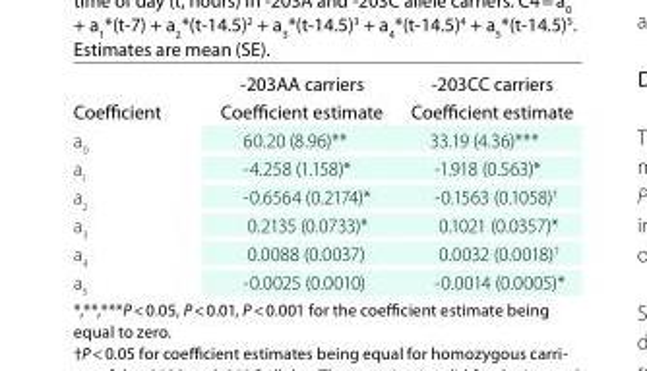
<table><thead><tr><td></td><td>-203aa carriers</td><td>-203cc carriers</td></tr></thead><tbody><tr><td>coefficient</td><td>coefficient estimate</td><td>coefficient estimate</td></tr><tr><td>a<sub>0</sub></td><td>60.20 (8.96)**</td><td>33.19 (4.36)***</td></tr><tr><td>a<sub>1</sub></td><td>-4.258 (1.158)*</td><td>-1.918 (0.563)*</td></tr><tr><td>a<sub>2</sub></td><td>-0.6564 (0.2174)*</td><td>-0.1563 (0.1058)†</td></tr><tr><td>a<sub>3</sub></td><td>0.2135 (0.0733)*</td><td>0.1021 (0.0357)*</td></tr><tr><td>a<sub>4</sub></td><td>0.0088 (0.0037)</td><td>0.0032 (0.0018)†</td></tr><tr><td>a<sub>5</sub></td><td>-0.0025 (0.0010)</td><td>-0.0014 (0.0005)*</td></tr></tbody></table>